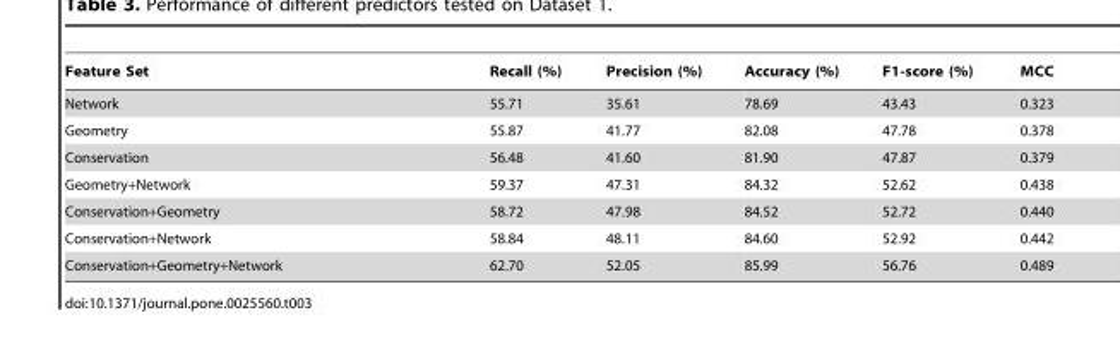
<table><thead><tr><td>Feature Set</td><td>Recall (%)</td><td>Precision (%)</td><td>Accuracy (%)</td><td>F1-score (%)</td><td>MCC</td></tr></thead><tbody><tr><td>Network</td><td>55.71</td><td>35.61</td><td>78.69</td><td>43.43</td><td>0.323</td></tr><tr><td>Geometry</td><td>55.87</td><td>41.77</td><td>82.08</td><td>47.78</td><td>0.378</td></tr><tr><td>Conservation</td><td>56.48</td><td>41.60</td><td>81.90</td><td>47.87</td><td>0.379</td></tr><tr><td>Geometry+Network</td><td>59.37</td><td>47.31</td><td>84.32</td><td>52.62</td><td>0.438</td></tr><tr><td>Conservation+Geometry</td><td>58.72</td><td>47.98</td><td>84.52</td><td>52.72</td><td>0.440</td></tr><tr><td>Conservation+Network</td><td>58.84</td><td>48.11</td><td>84.60</td><td>52.92</td><td>0.442</td></tr><tr><td>Conservation+Geometry+Network</td><td>62.70</td><td>52.05</td><td>85.99</td><td>56.76</td><td>0.489</td></tr></tbody></table>